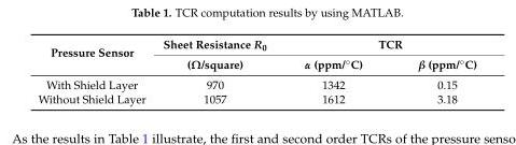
<table><thead><tr><td rowspan="2">Pressure Sensor</td><td rowspan="2">Sheet Resistance R<sub>0</sub> (Ω/square)</td><td colspan="2">TCR</td></tr><tr><td>α (ppm/◦C)</td><td>β (ppm/◦C)</td></tr></thead><tbody><tr><td>With Shield Layer</td><td>970</td><td>1342</td><td>0.15</td></tr><tr><td>Without Shield Layer</td><td>1057</td><td>1612</td><td>3.18</td></tr></tbody></table>